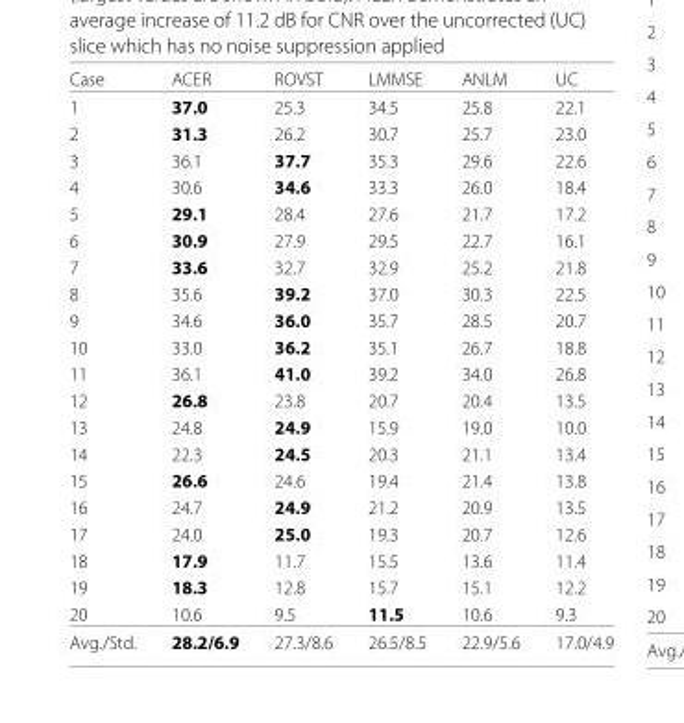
<table><thead><tr><td>Case</td><td>ACER</td><td>ROVST</td><td>LMMSE</td><td>ANLM</td><td>UC</td></tr></thead><tbody><tr><td>1</td><td>37.0</td><td>25.3</td><td>34.5</td><td>25.8</td><td>22.1</td></tr><tr><td>2</td><td>31.3</td><td>26.2</td><td>30.7</td><td>25.7</td><td>23.0</td></tr><tr><td>3</td><td>36.1</td><td>37.7</td><td>35.3</td><td>29.6</td><td>22.6</td></tr><tr><td>4</td><td>30.6</td><td>34.6</td><td>33.3</td><td>26.0</td><td>18.4</td></tr><tr><td>5</td><td>29.1</td><td>28.4</td><td>27.6</td><td>21.7</td><td>17.2</td></tr><tr><td>6</td><td>30.9</td><td>27.9</td><td>29.5</td><td>22.7</td><td>16.1</td></tr><tr><td>7</td><td>33.6</td><td>32.7</td><td>32.9</td><td>25.2</td><td>21.8</td></tr><tr><td>8</td><td>35.6</td><td>39.2</td><td>37.0</td><td>30.3</td><td>22.5</td></tr><tr><td>9</td><td>34.6</td><td>36.0</td><td>35.7</td><td>28.5</td><td>20.7</td></tr><tr><td>10</td><td>33.0</td><td>36.2</td><td>35.1</td><td>26.7</td><td>18.8</td></tr><tr><td>11</td><td>36.1</td><td>41.0</td><td>39.2</td><td>34.0</td><td>26.8</td></tr><tr><td>12</td><td>26.8</td><td>23.8</td><td>20.7</td><td>20.4</td><td>13.5</td></tr><tr><td>13</td><td>24.8</td><td>24.9</td><td>15.9</td><td>19.0</td><td>10.0</td></tr><tr><td>14</td><td>22.3</td><td>24.5</td><td>20.3</td><td>21.1</td><td>13.4</td></tr><tr><td>15</td><td>26.6</td><td>24.6</td><td>19.4</td><td>21.4</td><td>13.8</td></tr><tr><td>16</td><td>24.7</td><td>24.9</td><td>21.2</td><td>20.9</td><td>13.5</td></tr><tr><td>17</td><td>24.0</td><td>25.0</td><td>19.3</td><td>20.7</td><td>12.6</td></tr><tr><td>18</td><td>17.9</td><td>11.7</td><td>15.5</td><td>13.6</td><td>11.4</td></tr><tr><td>19</td><td>18.3</td><td>12.8</td><td>15.7</td><td>15.1</td><td>12.2</td></tr><tr><td>20</td><td>10.6</td><td>9.5</td><td>11.5</td><td>10.6</td><td>9.3</td></tr><tr><td>Avg./Std.</td><td>28.2/6.9</td><td>27.3/8.6</td><td>26.5/8.5</td><td>22.9/5.6</td><td>17.0/4.9</td></tr></tbody></table>